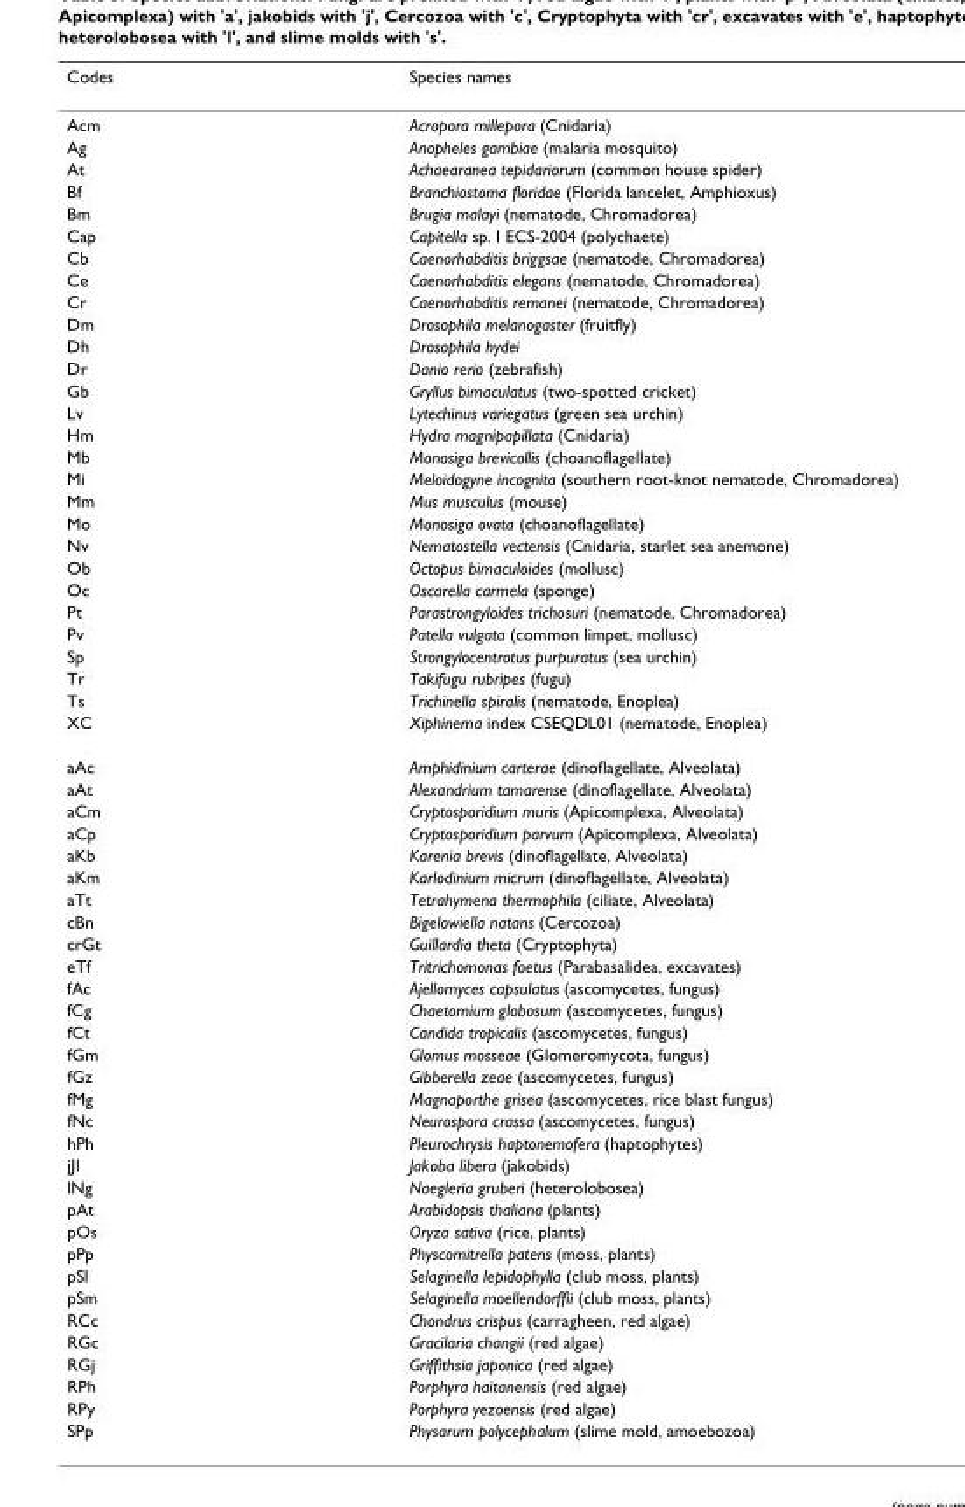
<table><thead><tr><td>Codes</td><td>Species names</td></tr></thead><tbody><tr><td>Acm</td><td>Acropora millepora (Cnidaria)</td></tr><tr><td>Ag</td><td>Anopheles gambiae (malaria mosquito)</td></tr><tr><td>At</td><td>Achaearanea tepidariorum (common house spider)</td></tr><tr><td>Bf</td><td>Branchiostoma floridae (Florida lancelet, Amphioxus)</td></tr><tr><td>Bm</td><td>Brugia malayi (nematode, Chromadorea)</td></tr><tr><td>Cap</td><td>Capitella sp. I ECS-2004 (polychaete)</td></tr><tr><td>Cb</td><td>Caenorhabditis briggsae (nematode, Chromadorea)</td></tr><tr><td>Ce</td><td>Caenorhabditis elegans (nematode, Chromadorea)</td></tr><tr><td>Cr</td><td>Caenorhabditis remanei (nematode, Chromadorea)</td></tr><tr><td>Dm</td><td>Drosophila melanogaster (fruitfly)</td></tr><tr><td>Dh</td><td>Drosophila hydei</td></tr><tr><td>Dr</td><td>Danio rerio (zebrafish)</td></tr><tr><td>Gb</td><td>Gryllus bimaculatus (two-spotted cricket)</td></tr><tr><td>Lv</td><td>Lytechinus variegatus (green sea urchin)</td></tr><tr><td>Hm</td><td>Hydra magnipapillata (Cnidaria)</td></tr><tr><td>Mb</td><td>Monosiga brevicollis (choanoflagellate)</td></tr><tr><td>Mi</td><td>Meloidogyne incognita (southern root-knot nematode, Chromadorea)</td></tr><tr><td>Mm</td><td>Mus musculus (mouse)</td></tr><tr><td>Mo</td><td>Monosiga ovata (choanoflagellate)</td></tr><tr><td>Nv</td><td>Nematostella vectensis (Cnidaria, starlet sea anemone)</td></tr><tr><td>Ob</td><td>Octopus bimaculoides (mollusc)</td></tr><tr><td>Oc</td><td>Oscarella carmela (sponge)</td></tr><tr><td>Pt</td><td>Parastrongyloides trichosuri (nematode, Chromadorea)</td></tr><tr><td>Pv</td><td>Patella vulgata (common limpet, mollusc)</td></tr><tr><td>Sp</td><td>Strongylocentrotus purpuratus (sea urchin)</td></tr><tr><td>Tr</td><td>Takifugu rubripes (fugu)</td></tr><tr><td>Ts</td><td>Trichinella spiralis (nematode, Enoplea)</td></tr><tr><td>XC</td><td>Xiphinema index CSEQDL01 (nematode, Enoplea)</td></tr><tr><td>aAc</td><td>Amphidinium carterae (dinoflagellate, Alveolata)</td></tr><tr><td>aAt</td><td>Alexandrium tamarense (dinoflagellate, Alveolata)</td></tr><tr><td>aCm</td><td>Cryptosporidium muris (Apicomplexa, Alveolata)</td></tr><tr><td>aCp</td><td>Cryptosporidium parvum (Apicomplexa, Alveolata)</td></tr><tr><td>aKb</td><td>Karenia brevis (dinoflagellate, Alveolata)</td></tr><tr><td>aKm</td><td>Karlodinium micrum (dinoflagellate, Alveolata)</td></tr><tr><td>aTt</td><td>Tetrahymena thermophila (ciliate, Alveolata)</td></tr><tr><td>cBn</td><td>Bigelowiella natans (Cercozoa)</td></tr><tr><td>crGt</td><td>Guillardia theta (Cryptophyta)</td></tr><tr><td>eTf</td><td>Tritrichomonas foetus (Parabasalidea, excavates)</td></tr><tr><td>fAc</td><td>Ajellomyces capsulatus (ascomycetes, fungus)</td></tr><tr><td>fCg</td><td>Chaetomium globosum (ascomycetes, fungus)</td></tr><tr><td>fCt</td><td>Candida tropicalis (ascomycetes, fungus)</td></tr><tr><td>fGm</td><td>Glomus mosseae (Glomeromycota, fungus)</td></tr><tr><td>fGz</td><td>Gibberella zeae (ascomycetes, fungus)</td></tr><tr><td>fMg</td><td>Magnaporthe grisea (ascomycetes, rice blast fungus)</td></tr><tr><td>fNc</td><td>Neurospora crassa (ascomycetes, fungus)</td></tr><tr><td>hPh</td><td>Pleurochrysis haptonemofera (haptophytes)</td></tr><tr><td>jJl</td><td>Jakoba libera (jakobids)</td></tr><tr><td>lNg</td><td>Naegleria gruberi (heterolobosea)</td></tr><tr><td>pAt</td><td>Arabidopsis thaliana (plants)</td></tr><tr><td>pOs</td><td>Oryza sativa (rice, plants)</td></tr><tr><td>pPp</td><td>Physcomitrella patens (moss, plants)</td></tr><tr><td>pSl</td><td>Selaginella lepidophylla (club moss, plants)</td></tr><tr><td>pSm</td><td>Selaginella moellendorffii (club moss, plants)</td></tr><tr><td>RCc</td><td>Chondrus crispus (carragheen, red algae)</td></tr><tr><td>RGc</td><td>Gracilaria changii (red algae)</td></tr><tr><td>RGj</td><td>Griffithsia japonica (red algae)</td></tr><tr><td>RPh</td><td>Porphyra haitanensis (red algae)</td></tr><tr><td>RPy</td><td>Porphyra yezoensis (red algae)</td></tr><tr><td>SPp</td><td>Physarum polycephalum (slime mold, amoebozoa)</td></tr></tbody></table>